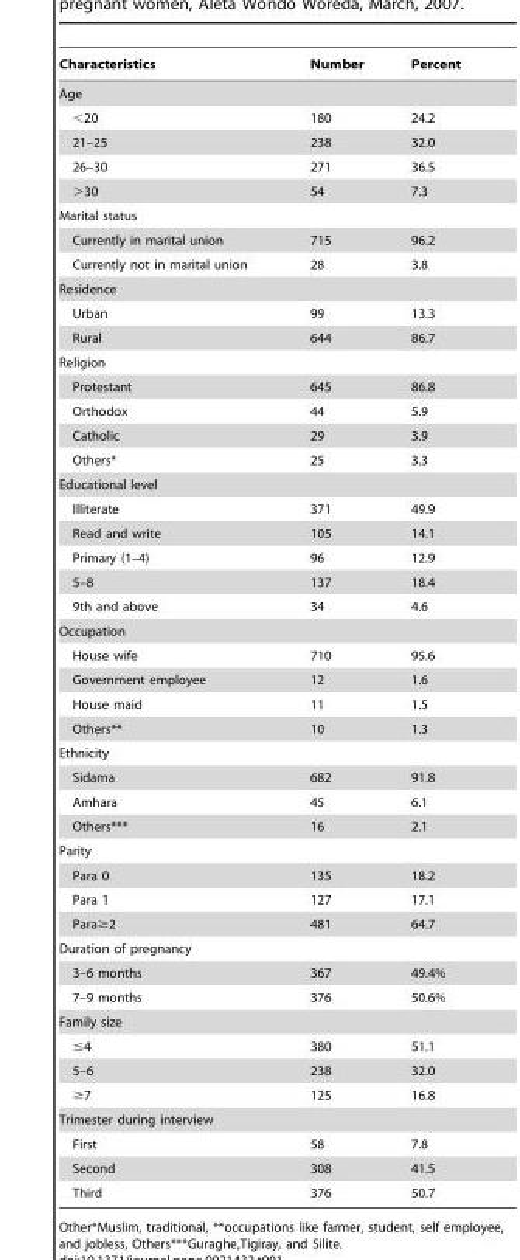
<table><thead><tr><td>Characteristics</td><td>Number</td><td>Percent</td></tr></thead><tbody><tr><td colspan="3">Age</td></tr><tr><td>&lt;20</td><td>180</td><td>24.2</td></tr><tr><td>21–25</td><td>238</td><td>32.0</td></tr><tr><td>26–30</td><td>271</td><td>36.5</td></tr><tr><td>&gt;30</td><td>54</td><td>7.3</td></tr><tr><td colspan="3">Marital status</td></tr><tr><td>Currently in marital union</td><td>715</td><td>96.2</td></tr><tr><td>Currently not in marital union</td><td>28</td><td>3.8</td></tr><tr><td colspan="3">Residence</td></tr><tr><td>Urban</td><td>99</td><td>13.3</td></tr><tr><td>Rural</td><td>644</td><td>86.7</td></tr><tr><td colspan="3">Religion</td></tr><tr><td>Protestant</td><td>645</td><td>86.8</td></tr><tr><td>Orthodox</td><td>44</td><td>5.9</td></tr><tr><td>Catholic</td><td>29</td><td>3.9</td></tr><tr><td>Others*</td><td>25</td><td>3.3</td></tr><tr><td colspan="3">Educational level</td></tr><tr><td>Illiterate</td><td>371</td><td>49.9</td></tr><tr><td>Read and write</td><td>105</td><td>14.1</td></tr><tr><td>Primary (1–4)</td><td>96</td><td>12.9</td></tr><tr><td>5–8</td><td>137</td><td>18.4</td></tr><tr><td>9th and above</td><td>34</td><td>4.6</td></tr><tr><td colspan="3">Occupation</td></tr><tr><td>House wife</td><td>710</td><td>95.6</td></tr><tr><td>Government employee</td><td>12</td><td>1.6</td></tr><tr><td>House maid</td><td>11</td><td>1.5</td></tr><tr><td>Others**</td><td>10</td><td>1.3</td></tr><tr><td colspan="3">Ethnicity</td></tr><tr><td>Sidama</td><td>682</td><td>91.8</td></tr><tr><td>Amhara</td><td>45</td><td>6.1</td></tr><tr><td>Others***</td><td>16</td><td>2.1</td></tr><tr><td colspan="3">Parity</td></tr><tr><td>Para 0</td><td>135</td><td>18.2</td></tr><tr><td>Para 1</td><td>127</td><td>17.1</td></tr><tr><td>Para≥2</td><td>481</td><td>64.7</td></tr><tr><td colspan="3">Duration of pregnancy</td></tr><tr><td>3–6 months</td><td>367</td><td>49.4%</td></tr><tr><td>7–9 months</td><td>376</td><td>50.6%</td></tr><tr><td colspan="3">Family size</td></tr><tr><td>≤4</td><td>380</td><td>51.1</td></tr><tr><td>5–6</td><td>238</td><td>32.0</td></tr><tr><td>≥7</td><td>125</td><td>16.8</td></tr><tr><td colspan="3">Trimester during interview</td></tr><tr><td>First</td><td>58</td><td>7.8</td></tr><tr><td>Second</td><td>308</td><td>41.5</td></tr><tr><td>Third</td><td>376</td><td>50.7</td></tr></tbody></table>